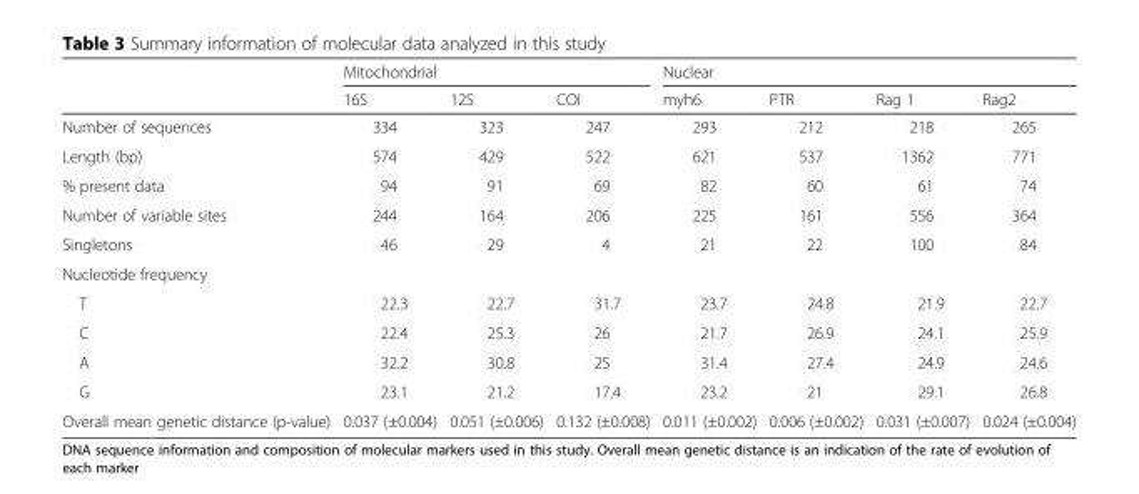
<table><thead><tr><td rowspan="2"></td><td colspan="3">Mitochondrial</td><td colspan="4">Nuclear</td></tr><tr><td>16S</td><td>12S</td><td>COI</td><td>myh6</td><td>PTR</td><td>Rag 1</td><td>Rag2</td></tr></thead><tbody><tr><td>Number of sequences</td><td>334</td><td>323</td><td>247</td><td>293</td><td>212</td><td>218</td><td>265</td></tr><tr><td>Length (bp)</td><td>574</td><td>429</td><td>522</td><td>621</td><td>537</td><td>1362</td><td>771</td></tr><tr><td>% present data</td><td>94</td><td>91</td><td>69</td><td>82</td><td>60</td><td>61</td><td>74</td></tr><tr><td>Number of variable sites</td><td>244</td><td>164</td><td>206</td><td>225</td><td>161</td><td>556</td><td>364</td></tr><tr><td>Singletons</td><td>46</td><td>29</td><td>4</td><td>21</td><td>22</td><td>100</td><td>84</td></tr><tr><td colspan="8">Nucleotide frequency</td></tr><tr><td>T</td><td>22.3</td><td>22.7</td><td>31.7</td><td>23.7</td><td>24.8</td><td>21.9</td><td>22.7</td></tr><tr><td>C</td><td>22.4</td><td>25.3</td><td>26</td><td>21.7</td><td>26.9</td><td>24.1</td><td>25.9</td></tr><tr><td>A</td><td>32.2</td><td>30.8</td><td>25</td><td>31.4</td><td>27.4</td><td>24.9</td><td>24.6</td></tr><tr><td>G</td><td>23.1</td><td>21.2</td><td>17.4</td><td>23.2</td><td>21</td><td>29.1</td><td>26.8</td></tr><tr><td>Overall mean genetic distance (p-value)</td><td>0.037 (±0.004)</td><td>0.051 (±0.006)</td><td>0.132 (±0.008)</td><td>0.011 (±0.002)</td><td>0.006 (±0.002)</td><td>0.031 (±0.007)</td><td>0.024 (±0.004)</td></tr></tbody></table>